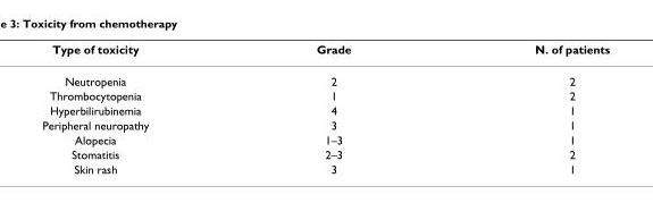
<table><thead><tr><td>Type of toxicity</td><td>Grade</td><td>N. of patients</td></tr></thead><tbody><tr><td>Neutropenia</td><td>2</td><td>2</td></tr><tr><td>Thrombocytopenia</td><td>1</td><td>2</td></tr><tr><td>Hyperbilirubinemia</td><td>4</td><td>1</td></tr><tr><td>Peripheral neuropathy</td><td>3</td><td>1</td></tr><tr><td>Alopecia</td><td>1–3</td><td>1</td></tr><tr><td>Stomatitis</td><td>2–3</td><td>2</td></tr><tr><td>Skin rash</td><td>3</td><td>1</td></tr></tbody></table>